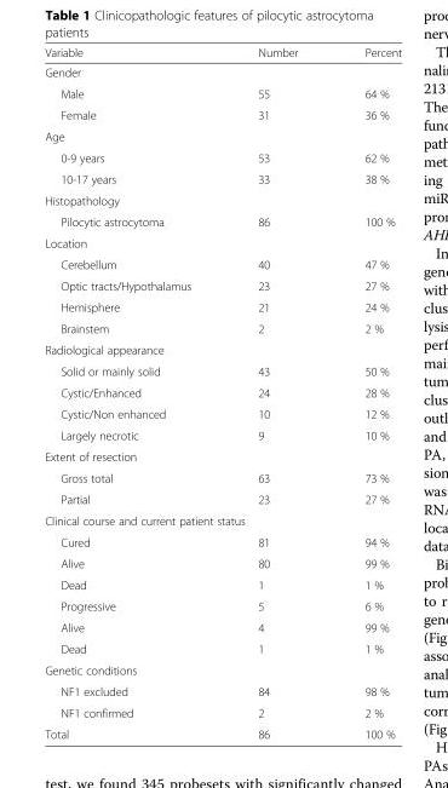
<table><thead><tr><td>Variable</td><td>Number</td><td>Percent</td></tr></thead><tbody><tr><td colspan="3">Gender</td></tr><tr><td>Male</td><td>55</td><td>64 %</td></tr><tr><td>Female</td><td>31</td><td>36 %</td></tr><tr><td colspan="3">Age</td></tr><tr><td>0-9 years</td><td>53</td><td>62 %</td></tr><tr><td>10-17 years</td><td>33</td><td>38 %</td></tr><tr><td colspan="3">Histopathology</td></tr><tr><td>Pilocytic astrocytoma</td><td>86</td><td>100 %</td></tr><tr><td colspan="3">Location</td></tr><tr><td>Cerebellum</td><td>40</td><td>47 %</td></tr><tr><td>Optic tracts/Hypothalamus</td><td>23</td><td>27 %</td></tr><tr><td>Hemisphere</td><td>21</td><td>24 %</td></tr><tr><td>Brainstem</td><td>2</td><td>2 %</td></tr><tr><td colspan="3">Radiological appearance</td></tr><tr><td>Solid or mainly solid</td><td>43</td><td>50 %</td></tr><tr><td>Cystic/Enhanced</td><td>24</td><td>28 %</td></tr><tr><td>Cystic/Non enhanced</td><td>10</td><td>12 %</td></tr><tr><td>Largely necrotic</td><td>9</td><td>10 %</td></tr><tr><td colspan="3">Extent of resection</td></tr><tr><td>Gross total</td><td>63</td><td>73 %</td></tr><tr><td>Partial</td><td>23</td><td>27 %</td></tr><tr><td colspan="3">Clinical course and current patient status</td></tr><tr><td>Cured</td><td>81</td><td>94 %</td></tr><tr><td>Alive</td><td>80</td><td>99 %</td></tr><tr><td>Dead</td><td>1</td><td>1 %</td></tr><tr><td>Progressive</td><td>5</td><td>6 %</td></tr><tr><td>Alive</td><td>4</td><td>99 %</td></tr><tr><td>Dead</td><td>1</td><td>1 %</td></tr><tr><td colspan="3">Genetic conditions</td></tr><tr><td>NF1 excluded</td><td>84</td><td>98 %</td></tr><tr><td>NF1 confirmed</td><td>2</td><td>2 %</td></tr><tr><td>Total</td><td>86</td><td>100 %</td></tr></tbody></table>